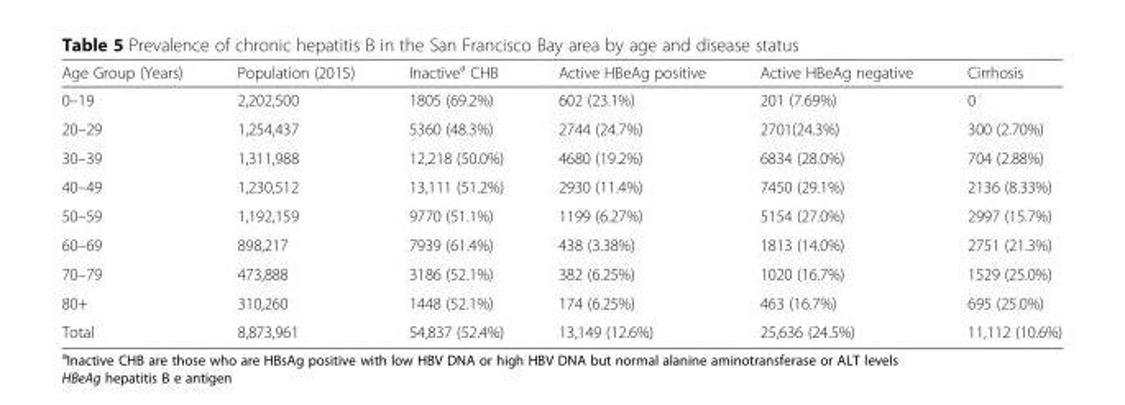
<table><thead><tr><td>Age Group (Years)</td><td>Population (2015)</td><td>Inactive<sup>a</sup> CHB</td><td>Active HBeAg positive</td><td>Active HBeAg negative</td><td>Cirrhosis</td></tr></thead><tbody><tr><td>0–19</td><td>2,202,500</td><td>1805 (69.2%)</td><td>602 (23.1%)</td><td>201 (7.69%)</td><td>0</td></tr><tr><td>20–29</td><td>1,254,437</td><td>5360 (48.3%)</td><td>2744 (24.7%)</td><td>2701(24.3%)</td><td>300 (2.70%)</td></tr><tr><td>30–39</td><td>1,311,988</td><td>12,218 (50.0%)</td><td>4680 (19.2%)</td><td>6834 (28.0%)</td><td>704 (2.88%)</td></tr><tr><td>40–49</td><td>1,230,512</td><td>13,111 (51.2%)</td><td>2930 (11.4%)</td><td>7450 (29.1%)</td><td>2136 (8.33%)</td></tr><tr><td>50–59</td><td>1,192,159</td><td>9770 (51.1%)</td><td>1199 (6.27%)</td><td>5154 (27.0%)</td><td>2997 (15.7%)</td></tr><tr><td>60–69</td><td>898,217</td><td>7939 (61.4%)</td><td>438 (3.38%)</td><td>1813 (14.0%)</td><td>2751 (21.3%)</td></tr><tr><td>70–79</td><td>473,888</td><td>3186 (52.1%)</td><td>382 (6.25%)</td><td>1020 (16.7%)</td><td>1529 (25.0%)</td></tr><tr><td>80+</td><td>310,260</td><td>1448 (52.1%)</td><td>174 (6.25%)</td><td>463 (16.7%)</td><td>695 (25.0%)</td></tr><tr><td>Total</td><td>8,873,961</td><td>54,837 (52.4%)</td><td>13,149 (12.6%)</td><td>25,636 (24.5%)</td><td>11,112 (10.6%)</td></tr></tbody></table>